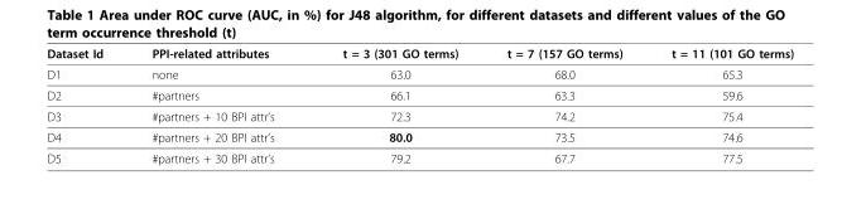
<table><thead><tr><td>Dataset Id</td><td>PPI-related attributes</td><td>t = 3 (301 GO terms)</td><td>t = 7 (157 GO terms)</td><td>t = 11 (101 GO terms)</td></tr></thead><tbody><tr><td>D1</td><td>none</td><td>63.0</td><td>68.0</td><td>65.3</td></tr><tr><td>D2</td><td>#partners</td><td>66.1</td><td>63.3</td><td>59.6</td></tr><tr><td>D3</td><td>#partners + 10 BPI attr’s</td><td>72.3</td><td>74.2</td><td>75.4</td></tr><tr><td>D4</td><td>#partners + 20 BPI attr’s</td><td>80.0</td><td>73.5</td><td>74.6</td></tr><tr><td>D5</td><td>#partners + 30 BPI attr’s</td><td>79.2</td><td>67.7</td><td>77.5</td></tr></tbody></table>